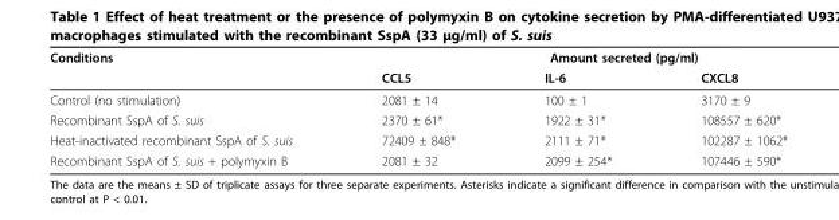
<table><thead><tr><td rowspan="2">Conditions</td><td colspan="3">Amount secreted (pg/ml)</td></tr><tr><td>CCL5</td><td>IL-6</td><td>CXCL8</td></tr></thead><tbody><tr><td>Control (no stimulation)</td><td>2081 ± 14</td><td>100 ± 1</td><td>3170 ± 9</td></tr><tr><td>Recombinant SspA of S. suis</td><td>2370 ± 61*</td><td>1922 ± 31*</td><td>108557 ± 620*</td></tr><tr><td>Heat-inactivated recombinant SspA of S. suis</td><td>72409 ± 848*</td><td>2111 ± 71*</td><td>102287 ± 1062*</td></tr><tr><td>Recombinant SspA of S. suis + polymyxin B</td><td>2081 ± 32</td><td>2099 ± 254*</td><td>107446 ± 590*</td></tr></tbody></table>